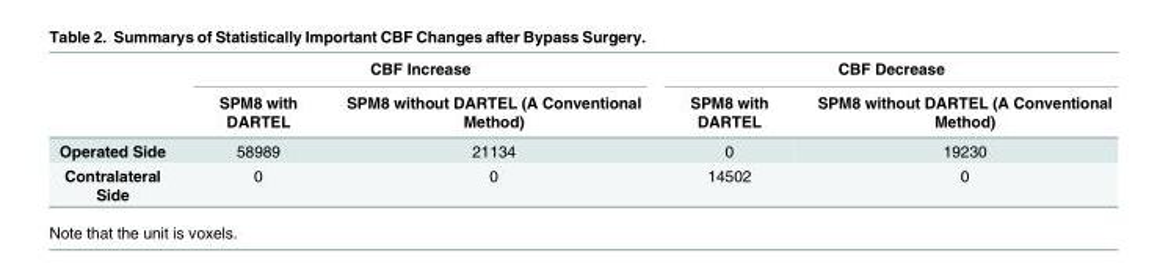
<table><thead><tr><td rowspan="2"></td><td colspan="2">CBF Increase</td><td colspan="2">CBF Decrease</td></tr><tr><td>SPM8 with DARTEL</td><td>SPM8 without DARTEL (A Conventional Method)</td><td>SPM8 with DARTEL</td><td>SPM8 without DARTEL (A Conventional Method)</td></tr></thead><tbody><tr><td>Operated Side</td><td>58989</td><td>21134</td><td>0</td><td>19230</td></tr><tr><td>Contralateral Side</td><td>0</td><td>0</td><td>14502</td><td>0</td></tr></tbody></table>